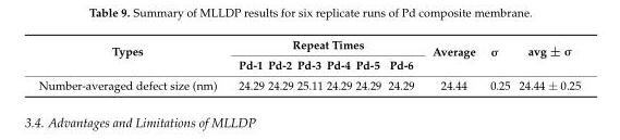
<table><thead><tr><td rowspan="2">Types</td><td colspan="6">Repeat Times</td><td rowspan="2">Average</td><td rowspan="2">σ</td><td rowspan="2">avg ± σ</td></tr><tr><td>Pd-1</td><td>Pd-2</td><td>Pd-3</td><td>Pd-4</td><td>Pd-5</td><td>Pd-6</td></tr></thead><tbody><tr><td>Number-averaged defect size (nm)</td><td>24.29</td><td>24.29</td><td>25.11</td><td>24.29</td><td>24.29</td><td>24.29</td><td>24.44</td><td>0.25</td><td>24.44 ± 0.25</td></tr></tbody></table>